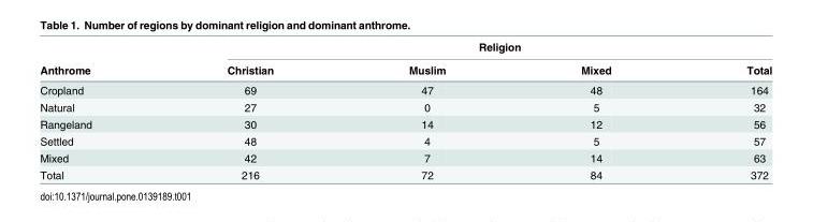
<table><thead><tr><td rowspan="2">Anthrome</td><td colspan="4">Religion</td></tr><tr><td>Christian</td><td>Muslim</td><td>Mixed</td><td>Total</td></tr></thead><tbody><tr><td>Cropland</td><td>69</td><td>47</td><td>48</td><td>164</td></tr><tr><td>Natural</td><td>27</td><td>0</td><td>5</td><td>32</td></tr><tr><td>Rangeland</td><td>30</td><td>14</td><td>12</td><td>56</td></tr><tr><td>Settled</td><td>48</td><td>4</td><td>5</td><td>57</td></tr><tr><td>Mixed</td><td>42</td><td>7</td><td>14</td><td>63</td></tr><tr><td>Total</td><td>216</td><td>72</td><td>84</td><td>372</td></tr></tbody></table>